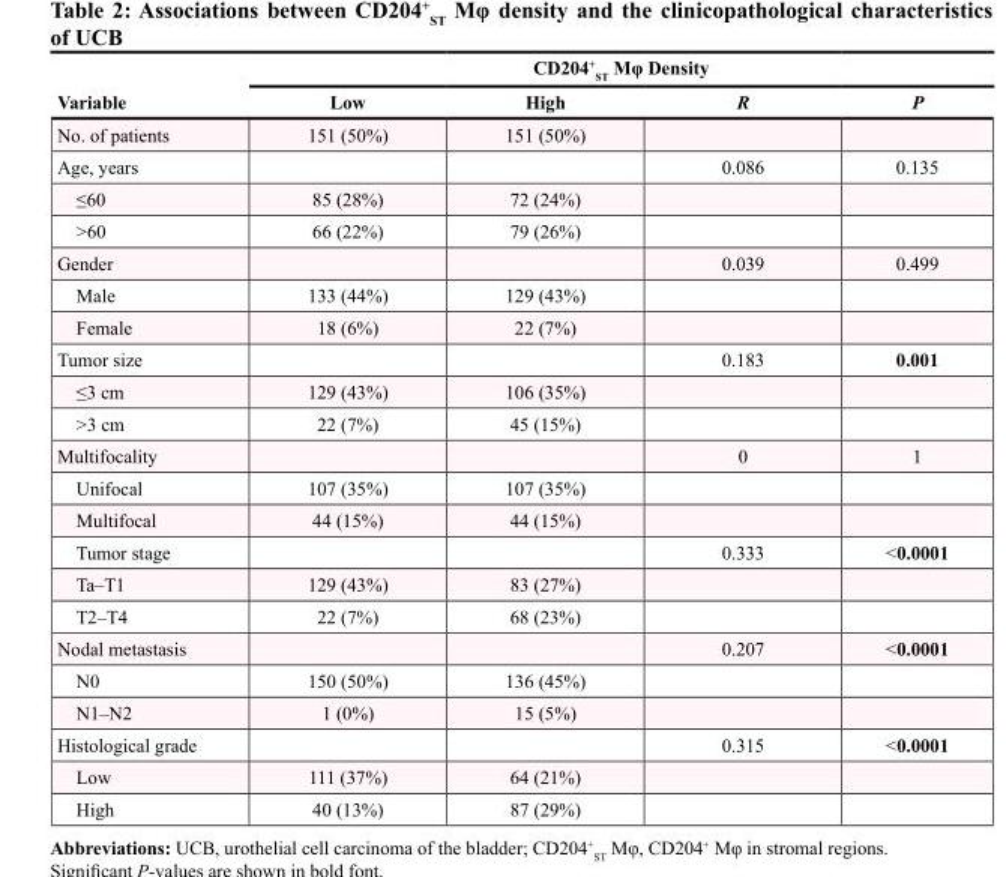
<table><thead><tr><td rowspan="2">Variable</td><td colspan="4">CD204<sup>+</sup> <sub>ST</sub> Mφ Density</td></tr><tr><td>Low</td><td>High</td><td>R</td><td>P</td></tr></thead><tbody><tr><td>No. of patients</td><td>151 (50%)</td><td>151 (50%)</td><td></td><td></td></tr><tr><td>Age, years</td><td></td><td></td><td>0.086</td><td>0.135</td></tr><tr><td>≤60</td><td>85 (28%)</td><td>72 (24%)</td><td></td><td></td></tr><tr><td>&gt;60</td><td>66 (22%)</td><td>79 (26%)</td><td></td><td></td></tr><tr><td>Gender</td><td></td><td></td><td>0.039</td><td>0.499</td></tr><tr><td>Male</td><td>133 (44%)</td><td>129 (43%)</td><td></td><td></td></tr><tr><td>Female</td><td>18 (6%)</td><td>22 (7%)</td><td></td><td></td></tr><tr><td>Tumor size</td><td></td><td></td><td>0.183</td><td>0.001</td></tr><tr><td>≤3 cm</td><td>129 (43%)</td><td>106 (35%)</td><td></td><td></td></tr><tr><td>&gt;3 cm</td><td>22 (7%)</td><td>45 (15%)</td><td></td><td></td></tr><tr><td>Multifocality</td><td></td><td></td><td>0</td><td>1</td></tr><tr><td>Unifocal</td><td>107 (35%)</td><td>107 (35%)</td><td></td><td></td></tr><tr><td>Multifocal</td><td>44 (15%)</td><td>44 (15%)</td><td></td><td></td></tr><tr><td>Tumor stage</td><td></td><td></td><td>0.333</td><td>&lt;0.0001</td></tr><tr><td>Ta–T1</td><td>129 (43%)</td><td>83 (27%)</td><td></td><td></td></tr><tr><td>T2–T4</td><td>22 (7%)</td><td>68 (23%)</td><td></td><td></td></tr><tr><td>Nodal metastasis</td><td></td><td></td><td>0.207</td><td>&lt;0.0001</td></tr><tr><td>N0</td><td>150 (50%)</td><td>136 (45%)</td><td></td><td></td></tr><tr><td>N1–N2</td><td>1 (0%)</td><td>15 (5%)</td><td></td><td></td></tr><tr><td>Histological grade</td><td></td><td></td><td>0.315</td><td>&lt;0.0001</td></tr><tr><td>Low</td><td>111 (37%)</td><td>64 (21%)</td><td></td><td></td></tr><tr><td>High</td><td>40 (13%)</td><td>87 (29%)</td><td></td><td></td></tr></tbody></table>